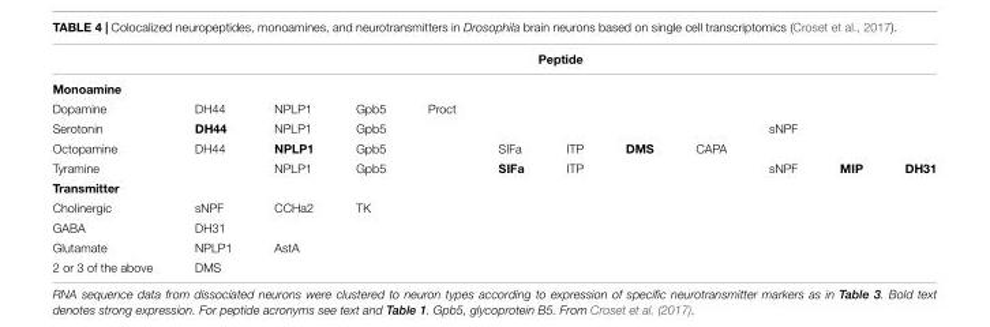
<table><thead><tr><td rowspan="3">Monoamine Dopamine</td><td rowspan="2" colspan="11">Peptide</td></tr><tr></tr><tr><td>DH44</td><td>NPLP1</td><td>Gpb5</td><td>Proct</td><td></td><td></td><td></td><td></td><td></td><td></td><td></td></tr></thead><tbody><tr><td>Serotonin</td><td>DH44</td><td>NPLP1</td><td>Gpb5</td><td></td><td></td><td></td><td></td><td></td><td>sNPF</td><td></td><td></td></tr><tr><td>Octopamine</td><td>DH44</td><td>NPLP1</td><td>Gpb5</td><td></td><td>SIFa</td><td>ITP</td><td>DMS</td><td>CAPA</td><td></td><td></td><td></td></tr><tr><td>Tyramine</td><td></td><td>NPLP1</td><td>Gpb5</td><td></td><td>SIFa</td><td>ITP</td><td></td><td></td><td>sNPF</td><td>MIP</td><td>DH31</td></tr><tr><td colspan="12">Transmitter</td></tr><tr><td>Cholinergic</td><td>sNPF</td><td>CCHa2</td><td>TK</td><td></td><td></td><td></td><td></td><td></td><td></td><td></td><td></td></tr><tr><td>GABA</td><td>DH31</td><td></td><td></td><td></td><td></td><td></td><td></td><td></td><td></td><td></td><td></td></tr><tr><td>Glutamate</td><td>NPLP1</td><td>AstA</td><td></td><td></td><td></td><td></td><td></td><td></td><td></td><td></td><td></td></tr><tr><td>2 or 3 of the above</td><td>DMS</td><td></td><td></td><td></td><td></td><td></td><td></td><td></td><td></td><td></td><td></td></tr></tbody></table>